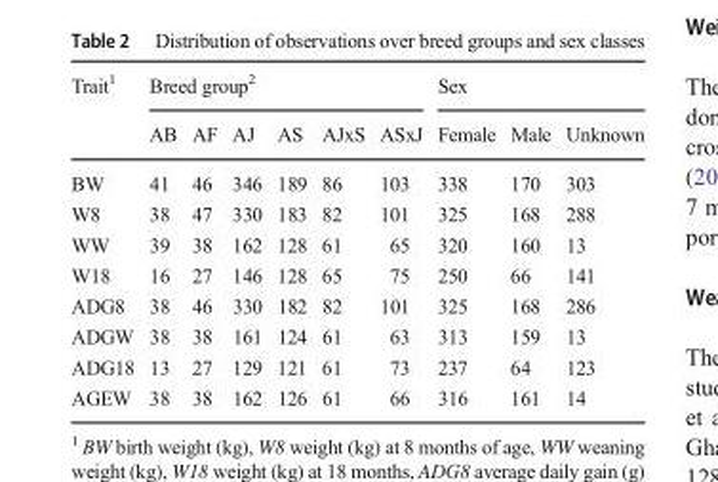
<table><thead><tr><td rowspan="2">Trait<sup>1</sup></td><td colspan="6">Breed group<sup>2</sup></td><td colspan="3">Sex</td></tr><tr><td>AB</td><td>AF</td><td>AJ</td><td>AS</td><td>AJxS</td><td>ASxJ</td><td>Female</td><td>Male</td><td>Unknown</td></tr></thead><tbody><tr><td>BW</td><td>41</td><td>46</td><td>346</td><td>189</td><td>86</td><td>103</td><td>338</td><td>170</td><td>303</td></tr><tr><td>W8</td><td>38</td><td>47</td><td>330</td><td>183</td><td>82</td><td>101</td><td>325</td><td>168</td><td>288</td></tr><tr><td>WW</td><td>39</td><td>38</td><td>162</td><td>128</td><td>61</td><td>65</td><td>320</td><td>160</td><td>13</td></tr><tr><td>W18</td><td>16</td><td>27</td><td>146</td><td>128</td><td>65</td><td>75</td><td>250</td><td>66</td><td>141</td></tr><tr><td>ADG8</td><td>38</td><td>46</td><td>330</td><td>182</td><td>82</td><td>101</td><td>325</td><td>168</td><td>286</td></tr><tr><td>ADGW</td><td>38</td><td>38</td><td>161</td><td>124</td><td>61</td><td>63</td><td>313</td><td>159</td><td>13</td></tr><tr><td>ADG18</td><td>13</td><td>27</td><td>129</td><td>121</td><td>61</td><td>73</td><td>237</td><td>64</td><td>123</td></tr><tr><td>AGEW</td><td>38</td><td>38</td><td>162</td><td>126</td><td>61</td><td>66</td><td>316</td><td>161</td><td>14</td></tr></tbody></table>